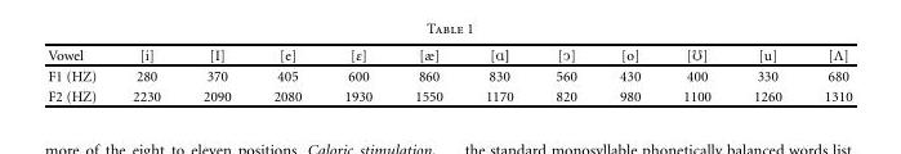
<table><thead><tr><td>Vowel</td><td>[i]</td><td>[I]</td><td>[e]</td><td>[ε]</td><td>[æ]</td><td>[ ɑ]</td><td>[ ɔ]</td><td>[o]</td><td>[ ℧]</td><td>[u]</td><td>[Λ]</td></tr></thead><tbody><tr><td>F1 (HZ)</td><td>280</td><td>370</td><td>405</td><td>600</td><td>860</td><td>830</td><td>560</td><td>430</td><td>400</td><td>330</td><td>680</td></tr><tr><td>F2 (HZ)</td><td>2230</td><td>2090</td><td>2080</td><td>1930</td><td>1550</td><td>1170</td><td>820</td><td>980</td><td>1100</td><td>1260</td><td>1310</td></tr></tbody></table>